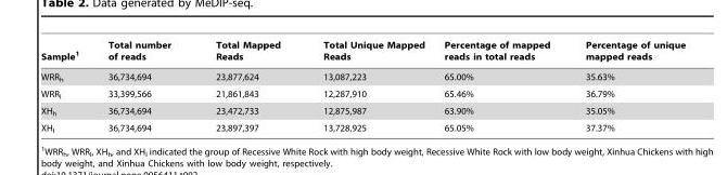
<table><thead><tr><td>Sample<sup>1</sup></td><td>Total number of reads</td><td>Total Mapped Reads</td><td>Total Unique Mapped Reads</td><td>Percentage of mapped reads in total reads</td><td>Percentage of unique mapped reads</td></tr></thead><tbody><tr><td>WRR<sub>h</sub></td><td>36,734,694</td><td>23,877,624</td><td>13,087,223</td><td>65.00%</td><td>35.63%</td></tr><tr><td>WRR<sub>l</sub></td><td>33,399,566</td><td>21,861,843</td><td>12,287,910</td><td>65.46%</td><td>36.79%</td></tr><tr><td>XH<sub>h</sub></td><td>36,734,694</td><td>23,472,733</td><td>12,875,987</td><td>63.90%</td><td>35.05%</td></tr><tr><td>XH<sub>l</sub></td><td>36,734,694</td><td>23,897,397</td><td>13,728,925</td><td>65.05%</td><td>37.37%</td></tr></tbody></table>